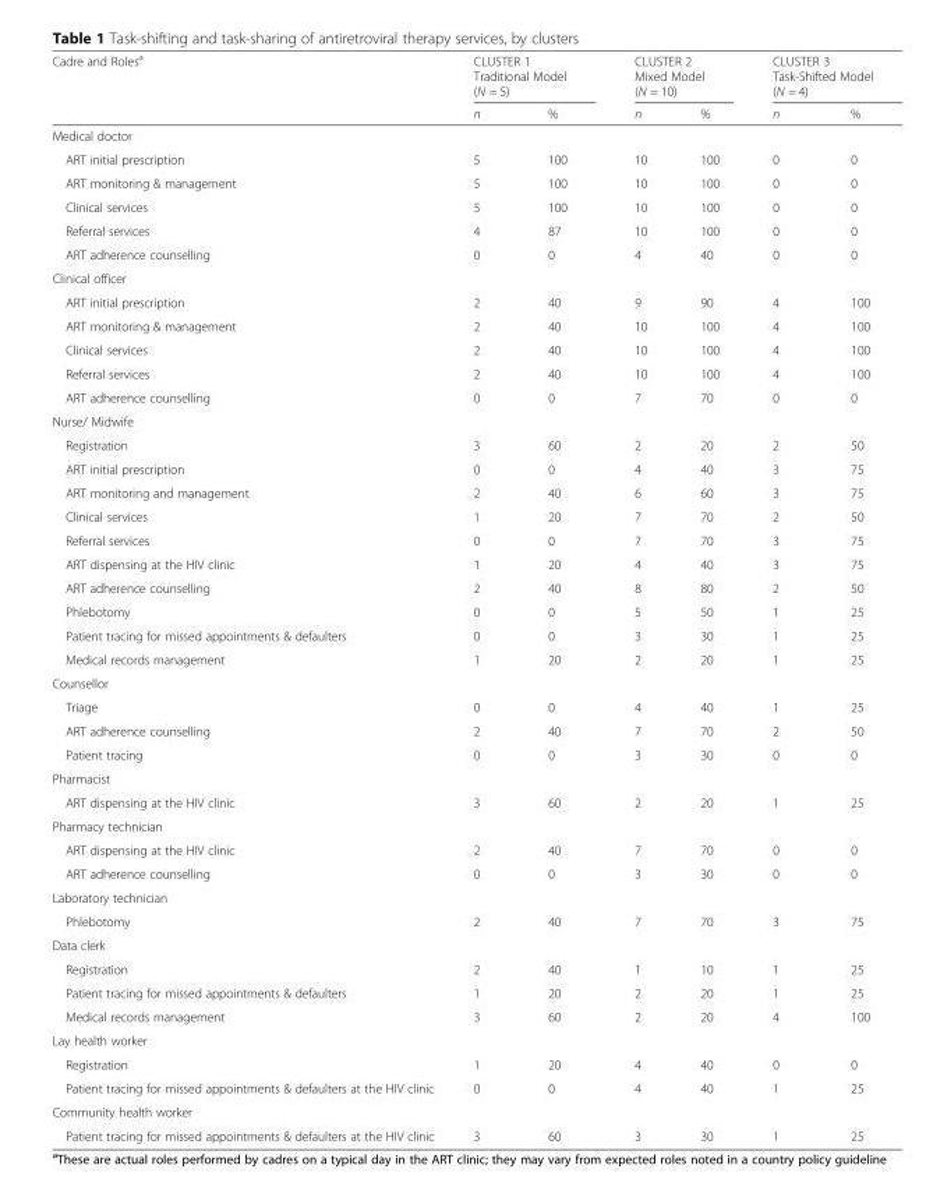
<table><thead><tr><td rowspan="2">Cadre and Roles<sup>a</sup></td><td colspan="2">CLUSTER 1 Traditional Model (N = 5)</td><td colspan="2">CLUSTER 2 Mixed Model (N = 10)</td><td colspan="2">CLUSTER 3 Task-Shifted Model (N = 4)</td></tr><tr><td>n</td><td>%</td><td>n</td><td>%</td><td>n</td><td>%</td></tr></thead><tbody><tr><td colspan="7">Medical doctor</td></tr><tr><td>ART initial prescription</td><td>5</td><td>100</td><td>10</td><td>100</td><td>0</td><td>0</td></tr><tr><td>ART monitoring &amp; management</td><td>5</td><td>100</td><td>10</td><td>100</td><td>0</td><td>0</td></tr><tr><td>Clinical services</td><td>5</td><td>100</td><td>10</td><td>100</td><td>0</td><td>0</td></tr><tr><td>Referral services</td><td>4</td><td>87</td><td>10</td><td>100</td><td>0</td><td>0</td></tr><tr><td>ART adherence counselling</td><td>0</td><td>0</td><td>4</td><td>40</td><td>0</td><td>0</td></tr><tr><td colspan="7">Clinical officer</td></tr><tr><td>ART initial prescription</td><td>2</td><td>40</td><td>9</td><td>90</td><td>4</td><td>100</td></tr><tr><td>ART monitoring &amp; management</td><td>2</td><td>40</td><td>10</td><td>100</td><td>4</td><td>100</td></tr><tr><td>Clinical services</td><td>2</td><td>40</td><td>10</td><td>100</td><td>4</td><td>100</td></tr><tr><td>Referral services</td><td>2</td><td>40</td><td>10</td><td>100</td><td>4</td><td>100</td></tr><tr><td>ART adherence counselling</td><td>0</td><td>0</td><td>7</td><td>70</td><td>0</td><td>0</td></tr><tr><td colspan="7">Nurse/ Midwife</td></tr><tr><td>Registration</td><td>3</td><td>60</td><td>2</td><td>20</td><td>2</td><td>50</td></tr><tr><td>ART initial prescription</td><td>0</td><td>0</td><td>4</td><td>40</td><td>3</td><td>75</td></tr><tr><td>ART monitoring and management</td><td>2</td><td>40</td><td>6</td><td>60</td><td>3</td><td>75</td></tr><tr><td>Clinical services</td><td>1</td><td>20</td><td>7</td><td>70</td><td>2</td><td>50</td></tr><tr><td>Referral services</td><td>0</td><td>0</td><td>7</td><td>70</td><td>3</td><td>75</td></tr><tr><td>ART dispensing at the HIV clinic</td><td>1</td><td>20</td><td>4</td><td>40</td><td>3</td><td>75</td></tr><tr><td>ART adherence counselling</td><td>2</td><td>40</td><td>8</td><td>80</td><td>2</td><td>50</td></tr><tr><td>Phlebotomy</td><td>0</td><td>0</td><td>5</td><td>50</td><td>1</td><td>25</td></tr><tr><td>Patient tracing for missed appointments &amp; defaulters</td><td>0</td><td>0</td><td>3</td><td>30</td><td>1</td><td>25</td></tr><tr><td>Medical records management</td><td>1</td><td>20</td><td>2</td><td>20</td><td>1</td><td>25</td></tr><tr><td colspan="7">Counsellor</td></tr><tr><td>Triage</td><td>0</td><td>0</td><td>4</td><td>40</td><td>1</td><td>25</td></tr><tr><td>ART adherence counselling</td><td>2</td><td>40</td><td>7</td><td>70</td><td>2</td><td>50</td></tr><tr><td>Patient tracing</td><td>0</td><td>0</td><td>3</td><td>30</td><td>0</td><td>0</td></tr><tr><td colspan="7">Pharmacist</td></tr><tr><td>ART dispensing at the HIV clinic</td><td>3</td><td>60</td><td>2</td><td>20</td><td>1</td><td>25</td></tr><tr><td colspan="7">Pharmacy technician</td></tr><tr><td>ART dispensing at the HIV clinic</td><td>2</td><td>40</td><td>7</td><td>70</td><td>0</td><td>0</td></tr><tr><td>ART adherence counselling</td><td>0</td><td>0</td><td>3</td><td>30</td><td>0</td><td>0</td></tr><tr><td colspan="7">Laboratory technician</td></tr><tr><td>Phlebotomy</td><td>2</td><td>40</td><td>7</td><td>70</td><td>3</td><td>75</td></tr><tr><td colspan="7">Data clerk</td></tr><tr><td>Registration</td><td>2</td><td>40</td><td>1</td><td>10</td><td>1</td><td>25</td></tr><tr><td>Patient tracing for missed appointments &amp; defaulters</td><td>1</td><td>20</td><td>2</td><td>20</td><td>1</td><td>25</td></tr><tr><td>Medical records management</td><td>3</td><td>60</td><td>2</td><td>20</td><td>4</td><td>100</td></tr><tr><td colspan="7">Lay health worker</td></tr><tr><td>Registration</td><td>1</td><td>20</td><td>4</td><td>40</td><td>0</td><td>0</td></tr><tr><td>Patient tracing for missed appointments &amp; defaulters at the HIV clinic</td><td>0</td><td>0</td><td>4</td><td>40</td><td>1</td><td>25</td></tr><tr><td colspan="7">Community health worker</td></tr><tr><td>Patient tracing for missed appointments &amp; defaulters at the HIV clinic</td><td>3</td><td>60</td><td>3</td><td>30</td><td>1</td><td>25</td></tr></tbody></table>